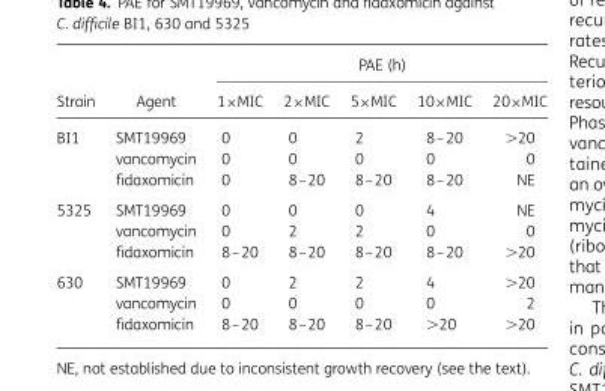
<table><thead><tr><td rowspan="2">Strain</td><td rowspan="2">Agent</td><td colspan="5">PAE (h)</td></tr><tr><td>1×MIC</td><td>2×MIC</td><td>5×MIC</td><td>10×MIC</td><td>20×MIC</td></tr></thead><tbody><tr><td rowspan="3">BI1</td><td>SMT19969</td><td>0</td><td>0</td><td>2</td><td>8–20</td><td>&gt;20</td></tr><tr><td>vancomycin</td><td>0</td><td>0</td><td>0</td><td>0</td><td>0</td></tr><tr><td>fidaxomicin</td><td>0</td><td>8–20</td><td>8–20</td><td>8–20</td><td>NE</td></tr><tr><td rowspan="3">5325</td><td>SMT19969</td><td>0</td><td>0</td><td>0</td><td>4</td><td>NE</td></tr><tr><td>vancomycin</td><td>0</td><td>2</td><td>2</td><td>0</td><td>0</td></tr><tr><td>fidaxomicin</td><td>8–20</td><td>8–20</td><td>8–20</td><td>8–20</td><td>&gt;20</td></tr><tr><td rowspan="3">630</td><td>SMT19969</td><td>0</td><td>2</td><td>2</td><td>4</td><td>&gt;20</td></tr><tr><td>vancomycin</td><td>0</td><td>0</td><td>0</td><td>0</td><td>2</td></tr><tr><td>fidaxomicin</td><td>8–20</td><td>8–20</td><td>8–20</td><td>&gt;20</td><td>&gt;20</td></tr></tbody></table>